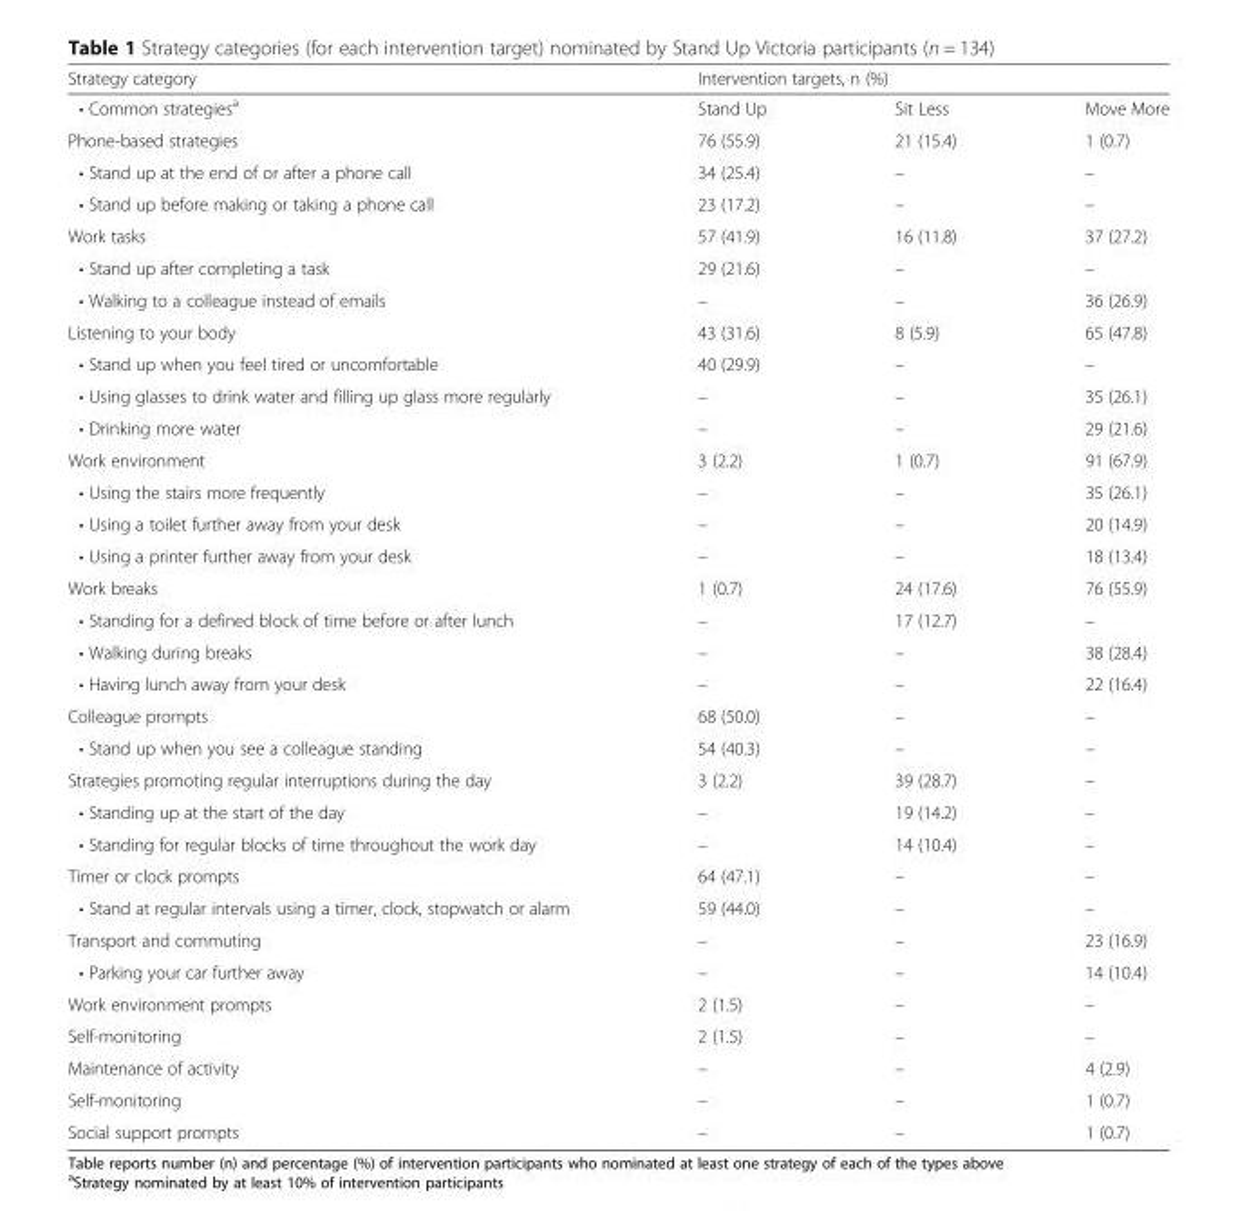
<table><thead><tr><td rowspan="2">Strategy category • Common strategies<sup>a</sup></td><td colspan="3">Intervention targets, n (%)</td></tr><tr><td>Stand Up</td><td>Sit Less</td><td>Move More</td></tr></thead><tbody><tr><td>Phone-based strategies</td><td>76 (55.9)</td><td>21 (15.4)</td><td>1 (0.7)</td></tr><tr><td>• Stand up at the end of or after a phone call</td><td>34 (25.4)</td><td>–</td><td>–</td></tr><tr><td>• Stand up before making or taking a phone call</td><td>23 (17.2)</td><td>–</td><td>–</td></tr><tr><td>Work tasks</td><td>57 (41.9)</td><td>16 (11.8)</td><td>37 (27.2)</td></tr><tr><td>• Stand up after completing a task</td><td>29 (21.6)</td><td>–</td><td>–</td></tr><tr><td>• Walking to a colleague instead of emails</td><td>–</td><td>–</td><td>36 (26.9)</td></tr><tr><td>Listening to your body</td><td>43 (31.6)</td><td>8 (5.9)</td><td>65 (47.8)</td></tr><tr><td>• Stand up when you feel tired or uncomfortable</td><td>40 (29.9)</td><td>–</td><td>–</td></tr><tr><td>• Using glasses to drink water and filling up glass more regularly</td><td>–</td><td>–</td><td>35 (26.1)</td></tr><tr><td>• Drinking more water</td><td>–</td><td>–</td><td>29 (21.6)</td></tr><tr><td>Work environment</td><td>3 (2.2)</td><td>1 (0.7)</td><td>91 (67.9)</td></tr><tr><td>• Using the stairs more frequently</td><td>–</td><td>–</td><td>35 (26.1)</td></tr><tr><td>• Using a toilet further away from your desk</td><td>–</td><td>–</td><td>20 (14.9)</td></tr><tr><td>• Using a printer further away from your desk</td><td>–</td><td>–</td><td>18 (13.4)</td></tr><tr><td>Work breaks</td><td>1 (0.7)</td><td>24 (17.6)</td><td>76 (55.9)</td></tr><tr><td>• Standing for a defined block of time before or after lunch</td><td>–</td><td>17 (12.7)</td><td>–</td></tr><tr><td>• Walking during breaks</td><td>–</td><td>–</td><td>38 (28.4)</td></tr><tr><td>• Having lunch away from your desk</td><td>–</td><td>–</td><td>22 (16.4)</td></tr><tr><td>Colleague prompts</td><td>68 (50.0)</td><td>–</td><td>–</td></tr><tr><td>• Stand up when you see a colleague standing</td><td>54 (40.3)</td><td>–</td><td>–</td></tr><tr><td>Strategies promoting regular interruptions during the day</td><td>3 (2.2)</td><td>39 (28.7)</td><td>–</td></tr><tr><td>• Standing up at the start of the day</td><td>–</td><td>19 (14.2)</td><td>–</td></tr><tr><td>• Standing for regular blocks of time throughout the work day</td><td>–</td><td>14 (10.4)</td><td>–</td></tr><tr><td>Timer or clock prompts</td><td>64 (47.1)</td><td>–</td><td>–</td></tr><tr><td>• Stand at regular intervals using a timer, clock, stopwatch or alarm</td><td>59 (44.0)</td><td>–</td><td>–</td></tr><tr><td>Transport and commuting</td><td>–</td><td>–</td><td>23 (16.9)</td></tr><tr><td>• Parking your car further away</td><td>–</td><td>–</td><td>14 (10.4)</td></tr><tr><td>Work environment prompts</td><td>2 (1.5)</td><td>–</td><td>–</td></tr><tr><td>Self-monitoring</td><td>2 (1.5)</td><td>–</td><td>–</td></tr><tr><td>Maintenance of activity</td><td>–</td><td>–</td><td>4 (2.9)</td></tr><tr><td>Self-monitoring</td><td>–</td><td>–</td><td>1 (0.7)</td></tr><tr><td>Social support prompts</td><td>–</td><td>–</td><td>1 (0.7)</td></tr></tbody></table>